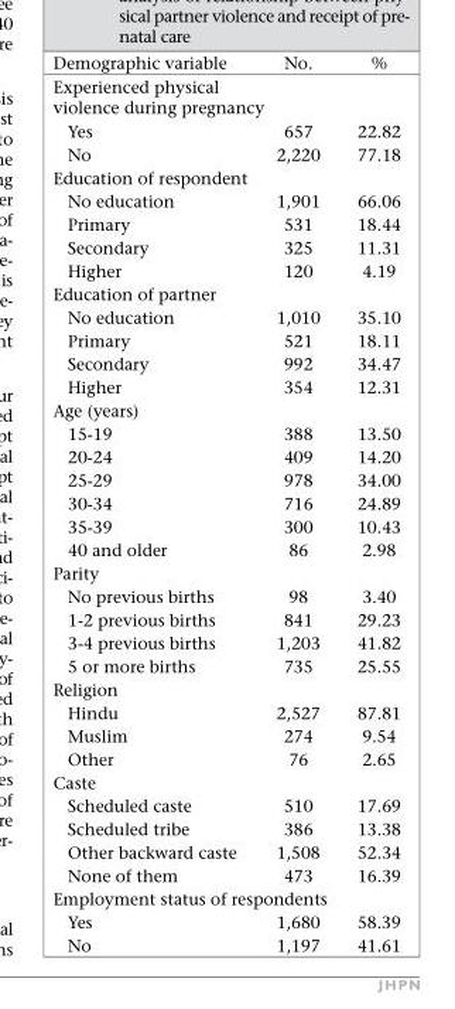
<table><thead><tr><td>Demographic variable</td><td>No.</td><td>%</td></tr></thead><tbody><tr><td colspan="3">Experienced physical violence during pregnancy</td></tr><tr><td>Yes</td><td>657</td><td>22.82</td></tr><tr><td>No</td><td>2,220</td><td>77.18</td></tr><tr><td colspan="3">Education of respondent</td></tr><tr><td>No education</td><td>1,901</td><td>66.06</td></tr><tr><td>Primary</td><td>531</td><td>18.44</td></tr><tr><td>Secondary</td><td>325</td><td>11.31</td></tr><tr><td>Higher</td><td>120</td><td>4.19</td></tr><tr><td colspan="3">Education of partner</td></tr><tr><td>No education</td><td>1,010</td><td>35.10</td></tr><tr><td>Primary</td><td>521</td><td>18.11</td></tr><tr><td>Secondary</td><td>992</td><td>34.47</td></tr><tr><td>Higher</td><td>354</td><td>12.31</td></tr><tr><td colspan="3">Age (years)</td></tr><tr><td>15-19</td><td>388</td><td>13.50</td></tr><tr><td>20-24</td><td>409</td><td>14.20</td></tr><tr><td>25-29</td><td>978</td><td>34.00</td></tr><tr><td>30-34</td><td>716</td><td>24.89</td></tr><tr><td>35-39</td><td>300</td><td>10.43</td></tr><tr><td>40 and older</td><td>86</td><td>2.98</td></tr><tr><td colspan="3">Parity</td></tr><tr><td>No previous births</td><td>98</td><td>3.40</td></tr><tr><td>1-2 previous births</td><td>841</td><td>29.23</td></tr><tr><td>3-4 previous births</td><td>1,203</td><td>41.82</td></tr><tr><td>5 or more births</td><td>735</td><td>25.55</td></tr><tr><td colspan="3">Religion</td></tr><tr><td>Hindu</td><td>2,527</td><td>87.81</td></tr><tr><td>Muslim</td><td>274</td><td>9.54</td></tr><tr><td>Other</td><td>76</td><td>2.65</td></tr><tr><td colspan="3">Caste</td></tr><tr><td>Scheduled caste</td><td>510</td><td>17.69</td></tr><tr><td>Scheduled tribe</td><td>386</td><td>13.38</td></tr><tr><td>Other backward caste</td><td>1,508</td><td>52.34</td></tr><tr><td>None of them</td><td>473</td><td>16.39</td></tr><tr><td colspan="3">Employment status of respondents</td></tr><tr><td>Yes</td><td>1,680</td><td>58.39</td></tr><tr><td>No</td><td>1,197</td><td>41.61</td></tr></tbody></table>